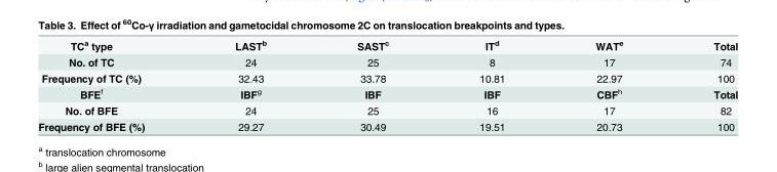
<table><tbody><tr><td>TC<sup>a</sup> type</td><td>LAST<sup>b</sup></td><td>SAST<sup>c</sup></td><td>IT<sup>d</sup></td><td>WAT<sup>e</sup></td><td>Total</td></tr><tr><td>No. of TC</td><td>24</td><td>25</td><td>8</td><td>17</td><td>74</td></tr><tr><td>Frequency of TC (%)</td><td>32.43</td><td>33.78</td><td>10.81</td><td>22.97</td><td>100</td></tr><tr><td>BFE<sup>f</sup></td><td>IBF<sup>g</sup></td><td>IBF</td><td>IBF</td><td>CBF<sup>h</sup></td><td>Total</td></tr><tr><td>No. of BFE</td><td>24</td><td>25</td><td>16</td><td>17</td><td>82</td></tr><tr><td>Frequency of BFE (%)</td><td>29.27</td><td>30.49</td><td>19.51</td><td>20.73</td><td>100</td></tr></tbody></table>